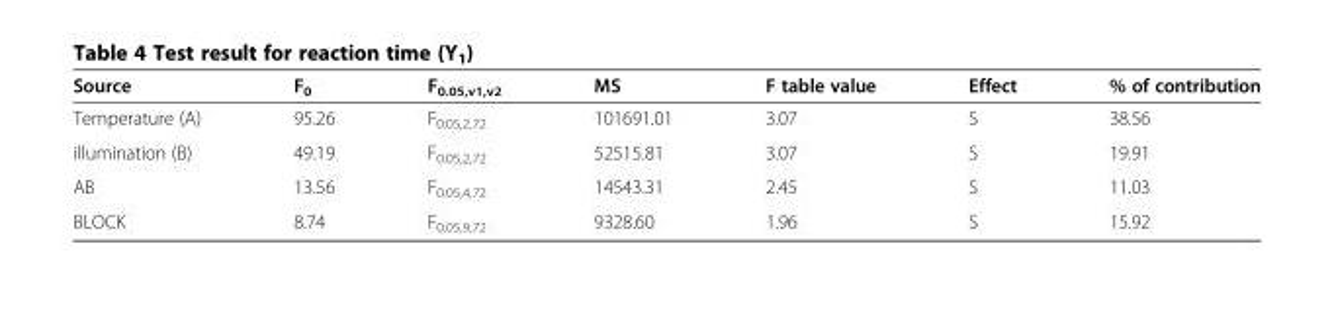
<table><thead><tr><td>Source</td><td>F<sub>0</sub></td><td>F<sub>0.05,v1,v2</sub></td><td>MS</td><td>F table value</td><td>Effect</td><td>% of contribution</td></tr></thead><tbody><tr><td>Temperature (A)</td><td>95.26</td><td>F<sub>0.05,2,72</sub></td><td>101691.01</td><td>3.07</td><td>S</td><td>38.56</td></tr><tr><td>illumination (B)</td><td>49.19</td><td>F<sub>0.05,2,72</sub></td><td>52515.81</td><td>3.07</td><td>S</td><td>19.91</td></tr><tr><td>AB</td><td>13.56</td><td>F<sub>0.05,4,72</sub></td><td>14543.31</td><td>2.45</td><td>S</td><td>11.03</td></tr><tr><td>BLOCK</td><td>8.74</td><td>F<sub>0.05,9,72</sub></td><td>9328.60</td><td>1.96</td><td>S</td><td>15.92</td></tr></tbody></table>